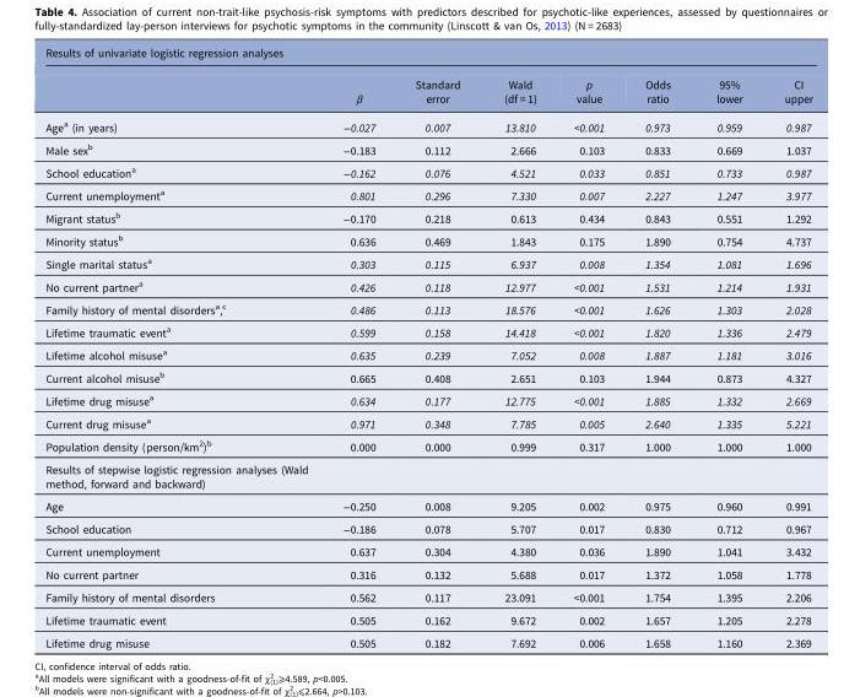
<table><thead><tr><td colspan="8">Results of univariate logistic regression analyses</td></tr><tr><td></td><td>β</td><td>Standard error</td><td>Wald (df = 1)</td><td>p value</td><td>Odds ratio</td><td>95% lower</td><td>CI upper</td></tr></thead><tbody><tr><td>Age<sup>a</sup> (in years)</td><td>−0.027</td><td>0.007</td><td>13.810</td><td>&lt;0.001</td><td>0.973</td><td>0.959</td><td>0.987</td></tr><tr><td>Male sex<sup>b</sup></td><td>−0.183</td><td>0.112</td><td>2.666</td><td>0.103</td><td>0.833</td><td>0.669</td><td>1.037</td></tr><tr><td>School education<sup>a</sup></td><td>−0.162</td><td>0.076</td><td>4.521</td><td>0.033</td><td>0.851</td><td>0.733</td><td>0.987</td></tr><tr><td>Current unemployment<sup>a</sup></td><td>0.801</td><td>0.296</td><td>7.330</td><td>0.007</td><td>2.227</td><td>1.247</td><td>3.977</td></tr><tr><td>Migrant status<sup>b</sup></td><td>−0.170</td><td>0.218</td><td>0.613</td><td>0.434</td><td>0.843</td><td>0.551</td><td>1.292</td></tr><tr><td>Minority status<sup>b</sup></td><td>0.636</td><td>0.469</td><td>1.843</td><td>0.175</td><td>1.890</td><td>0.754</td><td>4.737</td></tr><tr><td>Single marital status<sup>a</sup></td><td>0.303</td><td>0.115</td><td>6.937</td><td>0.008</td><td>1.354</td><td>1.081</td><td>1.696</td></tr><tr><td>No current partner<sup>a</sup></td><td>0.426</td><td>0.118</td><td>12.977</td><td>&lt;0.001</td><td>1.531</td><td>1.214</td><td>1.931</td></tr><tr><td>Family history of mental disorders<sup>a</sup>,<sup>c</sup></td><td>0.486</td><td>0.113</td><td>18.576</td><td>&lt;0.001</td><td>1.626</td><td>1.303</td><td>2.028</td></tr><tr><td>Lifetime traumatic event<sup>a</sup></td><td>0.599</td><td>0.158</td><td>14.418</td><td>&lt;0.001</td><td>1.820</td><td>1.336</td><td>2.479</td></tr><tr><td>Lifetime alcohol misuse<sup>a</sup></td><td>0.635</td><td>0.239</td><td>7.052</td><td>0.008</td><td>1.887</td><td>1.181</td><td>3.016</td></tr><tr><td>Current alcohol misuse<sup>b</sup></td><td>0.665</td><td>0.408</td><td>2.651</td><td>0.103</td><td>1.944</td><td>0.873</td><td>4.327</td></tr><tr><td>Lifetime drug misuse<sup>a</sup></td><td>0.634</td><td>0.177</td><td>12.775</td><td>&lt;0.001</td><td>1.885</td><td>1.332</td><td>2.669</td></tr><tr><td>Current drug misuse<sup>a</sup></td><td>0.971</td><td>0.348</td><td>7.785</td><td>0.005</td><td>2.640</td><td>1.335</td><td>5.221</td></tr><tr><td>Population density (person/km<sup>2</sup>)<sup>b</sup></td><td>0.000</td><td>0.000</td><td>0.999</td><td>0.317</td><td>1.000</td><td>1.000</td><td>1.000</td></tr><tr><td colspan="8">Results of stepwise logistic regression analyses (Wald method, forward and backward)</td></tr><tr><td>Age</td><td>−0.250</td><td>0.008</td><td>9.205</td><td>0.002</td><td>0.975</td><td>0.960</td><td>0.991</td></tr><tr><td>School education</td><td>−0.186</td><td>0.078</td><td>5.707</td><td>0.017</td><td>0.830</td><td>0.712</td><td>0.967</td></tr><tr><td>Current unemployment</td><td>0.637</td><td>0.304</td><td>4.380</td><td>0.036</td><td>1.890</td><td>1.041</td><td>3.432</td></tr><tr><td>No current partner</td><td>0.316</td><td>0.132</td><td>5.688</td><td>0.017</td><td>1.372</td><td>1.058</td><td>1.778</td></tr><tr><td>Family history of mental disorders</td><td>0.562</td><td>0.117</td><td>23.091</td><td>&lt;0.001</td><td>1.754</td><td>1.395</td><td>2.206</td></tr><tr><td>Lifetime traumatic event</td><td>0.505</td><td>0.162</td><td>9.672</td><td>0.002</td><td>1.657</td><td>1.205</td><td>2.278</td></tr><tr><td>Lifetime drug misuse</td><td>0.505</td><td>0.182</td><td>7.692</td><td>0.006</td><td>1.658</td><td>1.160</td><td>2.369</td></tr></tbody></table>